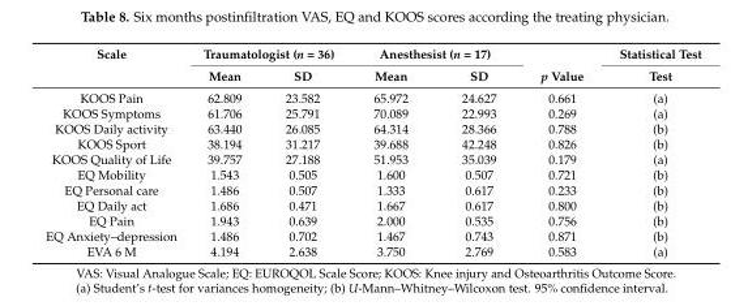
<table><thead><tr><td rowspan="2">Scale</td><td colspan="2">Traumatologist (n = 36)</td><td colspan="2">Anesthesist (n = 17)</td><td rowspan="2">p Value</td><td rowspan="2">Statistical Test Test</td></tr><tr><td>Mean</td><td>SD</td><td>Mean</td><td>SD</td></tr></thead><tbody><tr><td>KOOS Pain</td><td>62.809</td><td>23.582</td><td>65.972</td><td>24.627</td><td>0.661</td><td>(a)</td></tr><tr><td>KOOS Symptoms</td><td>61.706</td><td>25.791</td><td>70.089</td><td>22.993</td><td>0.269</td><td>(a)</td></tr><tr><td>KOOS Daily activity</td><td>63.440</td><td>26.085</td><td>64.314</td><td>28.366</td><td>0.788</td><td>(b)</td></tr><tr><td>KOOS Sport</td><td>38.194</td><td>31.217</td><td>39.688</td><td>42.248</td><td>0.826</td><td>(b)</td></tr><tr><td>KOOS Quality of Life</td><td>39.757</td><td>27.188</td><td>51.953</td><td>35.039</td><td>0.179</td><td>(a)</td></tr><tr><td>EQ Mobility</td><td>1.543</td><td>0.505</td><td>1.600</td><td>0.507</td><td>0.721</td><td>(b)</td></tr><tr><td>EQ Personal care</td><td>1.486</td><td>0.507</td><td>1.333</td><td>0.617</td><td>0.233</td><td>(b)</td></tr><tr><td>EQ Daily act</td><td>1.686</td><td>0.471</td><td>1.667</td><td>0.617</td><td>0.800</td><td>(b)</td></tr><tr><td>EQ Pain</td><td>1.943</td><td>0.639</td><td>2.000</td><td>0.535</td><td>0.756</td><td>(b)</td></tr><tr><td>EQ Anxiety–depression</td><td>1.486</td><td>0.702</td><td>1.467</td><td>0.743</td><td>0.871</td><td>(b)</td></tr><tr><td>EVA 6 M</td><td>4.194</td><td>2.638</td><td>3.750</td><td>2.769</td><td>0.583</td><td>(a)</td></tr></tbody></table>